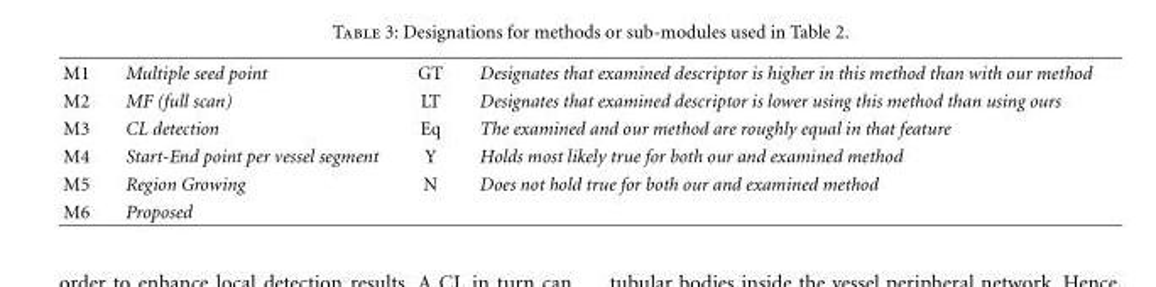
<table><tbody><tr><td>M1</td><td>Multiple seed point</td><td>GT</td><td>Designates that examined descriptor is higher in this method than with our method</td></tr><tr><td>M2</td><td>MF (full scan)</td><td>LT</td><td>Designates that examined descriptor is lower using this method than using ours</td></tr><tr><td>M3</td><td>CL detection</td><td>Eq</td><td>The examined and our method are roughly equal in that feature</td></tr><tr><td>M4</td><td>Start-End point per vessel segment</td><td>Y</td><td>Holds most likely true for both our and examined method</td></tr><tr><td>M5</td><td>Region Growing</td><td>N</td><td>Does not hold true for both our and examined method</td></tr><tr><td>M6</td><td>Proposed</td><td></td><td></td></tr></tbody></table>